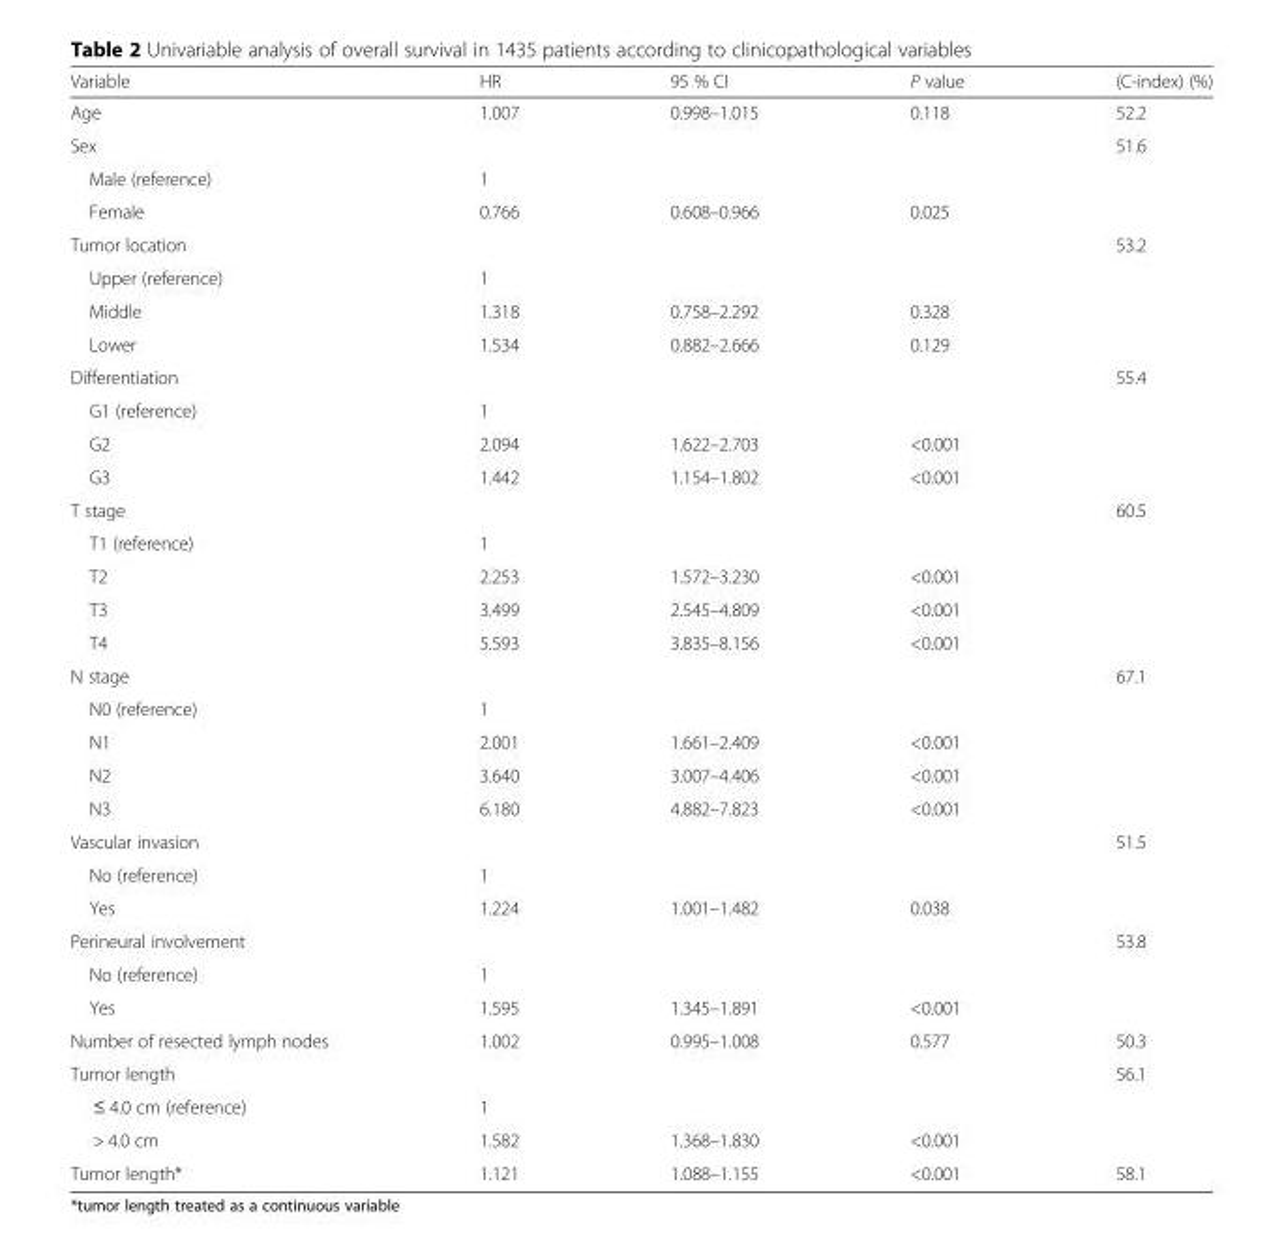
<table><thead><tr><td>Variable</td><td>HR</td><td>95 % CI</td><td>P value</td><td>(C-index) (%)</td></tr></thead><tbody><tr><td>Age</td><td>1.007</td><td>0.998–1.015</td><td>0.118</td><td>52.2</td></tr><tr><td>Sex</td><td></td><td></td><td></td><td>51.6</td></tr><tr><td>Male (reference)</td><td>1</td><td></td><td></td><td></td></tr><tr><td>Female</td><td>0.766</td><td>0.608–0.966</td><td>0.025</td><td></td></tr><tr><td>Tumor location</td><td></td><td></td><td></td><td>53.2</td></tr><tr><td>Upper (reference)</td><td>1</td><td></td><td></td><td></td></tr><tr><td>Middle</td><td>1.318</td><td>0.758–2.292</td><td>0.328</td><td></td></tr><tr><td>Lower</td><td>1.534</td><td>0.882–2.666</td><td>0.129</td><td></td></tr><tr><td>Differentiation</td><td></td><td></td><td></td><td>55.4</td></tr><tr><td>G1 (reference)</td><td>1</td><td></td><td></td><td></td></tr><tr><td>G2</td><td>2.094</td><td>1.622–2.703</td><td>&lt;0.001</td><td></td></tr><tr><td>G3</td><td>1.442</td><td>1.154–1.802</td><td>&lt;0.001</td><td></td></tr><tr><td>T stage</td><td></td><td></td><td></td><td>60.5</td></tr><tr><td>T1 (reference)</td><td>1</td><td></td><td></td><td></td></tr><tr><td>T2</td><td>2.253</td><td>1.572–3.230</td><td>&lt;0.001</td><td></td></tr><tr><td>T3</td><td>3.499</td><td>2.545–4.809</td><td>&lt;0.001</td><td></td></tr><tr><td>T4</td><td>5.593</td><td>3.835–8.156</td><td>&lt;0.001</td><td></td></tr><tr><td>N stage</td><td></td><td></td><td></td><td>67.1</td></tr><tr><td>N0 (reference)</td><td>1</td><td></td><td></td><td></td></tr><tr><td>N1</td><td>2.001</td><td>1.661–2.409</td><td>&lt;0.001</td><td></td></tr><tr><td>N2</td><td>3.640</td><td>3.007–4.406</td><td>&lt;0.001</td><td></td></tr><tr><td>N3</td><td>6.180</td><td>4.882–7.823</td><td>&lt;0.001</td><td></td></tr><tr><td>Vascular invasion</td><td></td><td></td><td></td><td>51.5</td></tr><tr><td>No (reference)</td><td>1</td><td></td><td></td><td></td></tr><tr><td>Yes</td><td>1.224</td><td>1.001–1.482</td><td>0.038</td><td></td></tr><tr><td>Perineural involvement</td><td></td><td></td><td></td><td>53.8</td></tr><tr><td>No (reference)</td><td>1</td><td></td><td></td><td></td></tr><tr><td>Yes</td><td>1.595</td><td>1.345–1.891</td><td>&lt;0.001</td><td></td></tr><tr><td>Number of resected lymph nodes</td><td>1.002</td><td>0.995–1.008</td><td>0.577</td><td>50.3</td></tr><tr><td>Tumor length</td><td></td><td></td><td></td><td>56.1</td></tr><tr><td>≤ 4.0 cm (reference)</td><td>1</td><td></td><td></td><td></td></tr><tr><td>&gt; 4.0 cm</td><td>1.582</td><td>1.368–1.830</td><td>&lt;0.001</td><td></td></tr><tr><td>Tumor length*</td><td>1.121</td><td>1.088–1.155</td><td>&lt;0.001</td><td>58.1</td></tr></tbody></table>